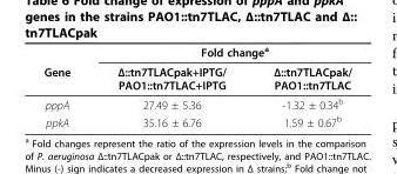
<table><thead><tr><td rowspan="2">Gene</td><td colspan="2">Fold change<sup>a</sup></td></tr><tr><td>Δ::tn7TLACpak+IPTG/ PAO1::tn7TLAC+IPTG</td><td>Δ::tn7TLACpak/ PAO1::tn7TLAC</td></tr></thead><tbody><tr><td>pppA</td><td>27.49 ± 5.36</td><td>-1.32 ± 0.34<sup>b</sup></td></tr><tr><td>ppkA</td><td>35.16 ± 6.76</td><td>1.59 ± 0.67<sup>b</sup></td></tr></tbody></table>